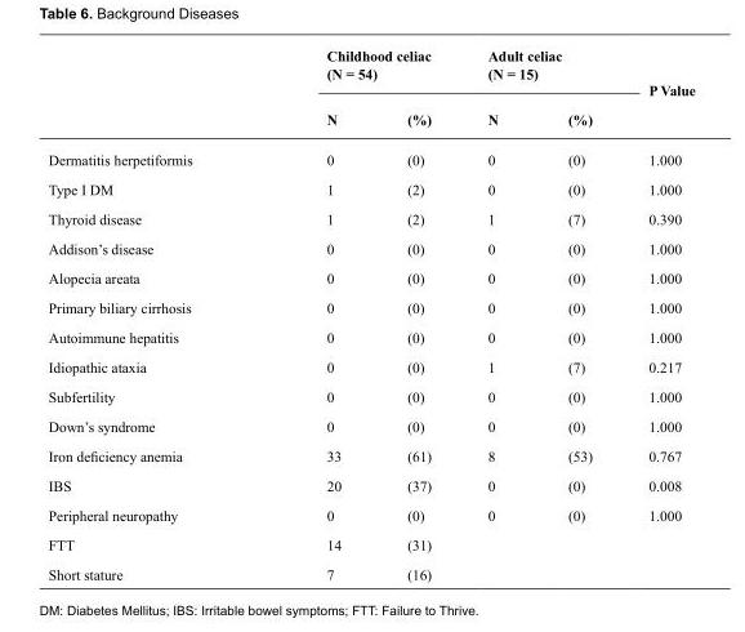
<table><thead><tr><td rowspan="2"></td><td colspan="2">Childhood celiac (N = 54)</td><td colspan="2">Adult celiac (N = 15)</td><td rowspan="2">P Value</td></tr><tr><td>N</td><td>(%)</td><td>N</td><td>(%)</td></tr></thead><tbody><tr><td>Dermatitis herpetiformis</td><td>0</td><td>(0)</td><td>0</td><td>(0)</td><td>1.000</td></tr><tr><td>Type I DM</td><td>1</td><td>(2)</td><td>0</td><td>(0)</td><td>1.000</td></tr><tr><td>Thyroid disease</td><td>1</td><td>(2)</td><td>1</td><td>(7)</td><td>0.390</td></tr><tr><td>Addison’s disease</td><td>0</td><td>(0)</td><td>0</td><td>(0)</td><td>1.000</td></tr><tr><td>Alopecia areata</td><td>0</td><td>(0)</td><td>0</td><td>(0)</td><td>1.000</td></tr><tr><td>Primary biliary cirrhosis</td><td>0</td><td>(0)</td><td>0</td><td>(0)</td><td>1.000</td></tr><tr><td>Autoimmune hepatitis</td><td>0</td><td>(0)</td><td>0</td><td>(0)</td><td>1.000</td></tr><tr><td>Idiopathic ataxia</td><td>0</td><td>(0)</td><td>1</td><td>(7)</td><td>0.217</td></tr><tr><td>Subfertility</td><td>0</td><td>(0)</td><td>0</td><td>(0)</td><td>1.000</td></tr><tr><td>Down’s syndrome</td><td>0</td><td>(0)</td><td>0</td><td>(0)</td><td>1.000</td></tr><tr><td>Iron deficiency anemia</td><td>33</td><td>(61)</td><td>8</td><td>(53)</td><td>0.767</td></tr><tr><td>IBS</td><td>20</td><td>(37)</td><td>0</td><td>(0)</td><td>0.008</td></tr><tr><td>Peripheral neuropathy</td><td>0</td><td>(0)</td><td>0</td><td>(0)</td><td>1.000</td></tr><tr><td>FTT</td><td>14</td><td>(31)</td><td></td><td></td><td></td></tr><tr><td>Short stature</td><td>7</td><td>(16)</td><td></td><td></td><td></td></tr></tbody></table>